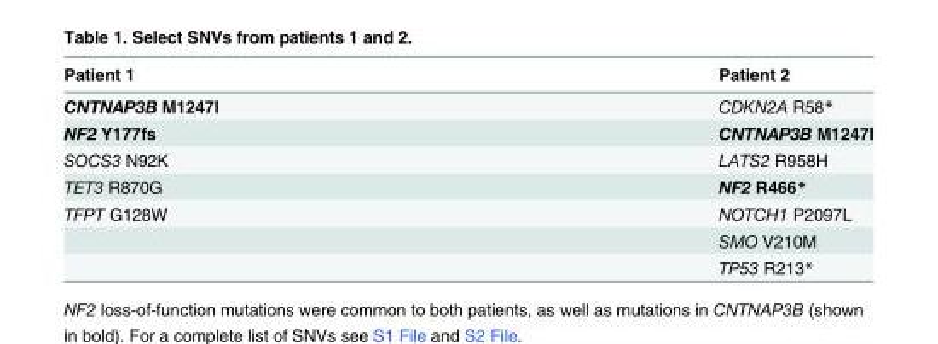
<table><thead><tr><td>Patient 1</td><td>Patient 2</td></tr></thead><tbody><tr><td>CNTNAP3B M1247I</td><td>CDKN2A R58*</td></tr><tr><td>NF2 Y177fs</td><td>CNTNAP3B M1247I</td></tr><tr><td>SOCS3 N92K</td><td>LATS2 R958H</td></tr><tr><td>TET3 R870G</td><td>NF2 R466*</td></tr><tr><td rowspan="3">TFPT G128W</td><td>NOTCH1 P2097L</td></tr><tr><td>SMO V210M</td></tr><tr><td>TP53 R213*</td></tr></tbody></table>